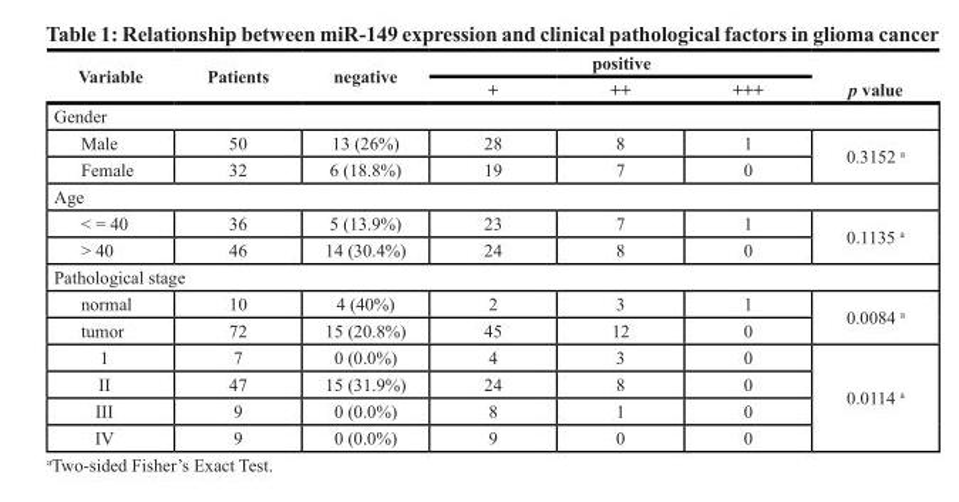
<table><thead><tr><td rowspan="2">Variable</td><td rowspan="2">Patients</td><td rowspan="2">negative</td><td colspan="3">positive</td><td rowspan="2">p value</td></tr><tr><td>+</td><td>++</td><td>+++</td></tr></thead><tbody><tr><td colspan="7">Gender</td></tr><tr><td>Male</td><td>50</td><td>13 (26%)</td><td>28</td><td>8</td><td>1</td><td rowspan="2">0.3152 <sup>a</sup></td></tr><tr><td>Female</td><td>32</td><td>6 (18.8%)</td><td>19</td><td>7</td><td>0</td></tr><tr><td colspan="7">Age</td></tr><tr><td>&lt; = 40</td><td>36</td><td>5 (13.9%)</td><td>23</td><td>7</td><td>1</td><td rowspan="2">0.1135 <sup>a</sup></td></tr><tr><td>&gt; 40</td><td>46</td><td>14 (30.4%)</td><td>24</td><td>8</td><td>0</td></tr><tr><td colspan="7">Pathological stage</td></tr><tr><td>normal</td><td>10</td><td>4 (40%)</td><td>2</td><td>3</td><td>1</td><td rowspan="2">0.0084 <sup>a</sup></td></tr><tr><td>tumor</td><td>72</td><td>15 (20.8%)</td><td>45</td><td>12</td><td>0</td></tr><tr><td>1</td><td>7</td><td>0 (0.0%)</td><td>4</td><td>3</td><td>0</td><td rowspan="4">0.0114 <sup>a</sup></td></tr><tr><td>II</td><td>47</td><td>15 (31.9%)</td><td>24</td><td>8</td><td>0</td></tr><tr><td>III</td><td>9</td><td>0 (0.0%)</td><td>8</td><td>1</td><td>0</td></tr><tr><td>IV</td><td>9</td><td>0 (0.0%)</td><td>9</td><td>0</td><td>0</td></tr></tbody></table>